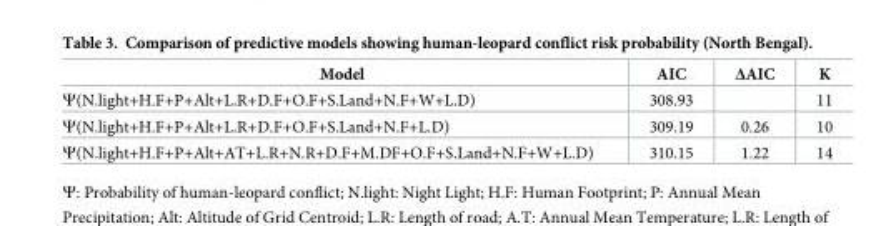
<table><thead><tr><td>Model</td><td>AIC</td><td>ΔAIC</td><td>K</td></tr></thead><tbody><tr><td>Ψ(N.light+H.F+P+Alt+L.R+D.F+O.F+S.Land+N.F+W+L.D)</td><td>308.93</td><td></td><td>11</td></tr><tr><td>Ψ(N.light+H.F+P+Alt+L.R+D.F+O.F+S.Land+N.F+L.D)</td><td>309.19</td><td>0.26</td><td>10</td></tr><tr><td>Ψ(N.light+H.F+P+Alt+AT+L.R+N.R+D.F+M.DF+O.F+S.Land+N.F+W+L.D)</td><td>310.15</td><td>1.22</td><td>14</td></tr></tbody></table>